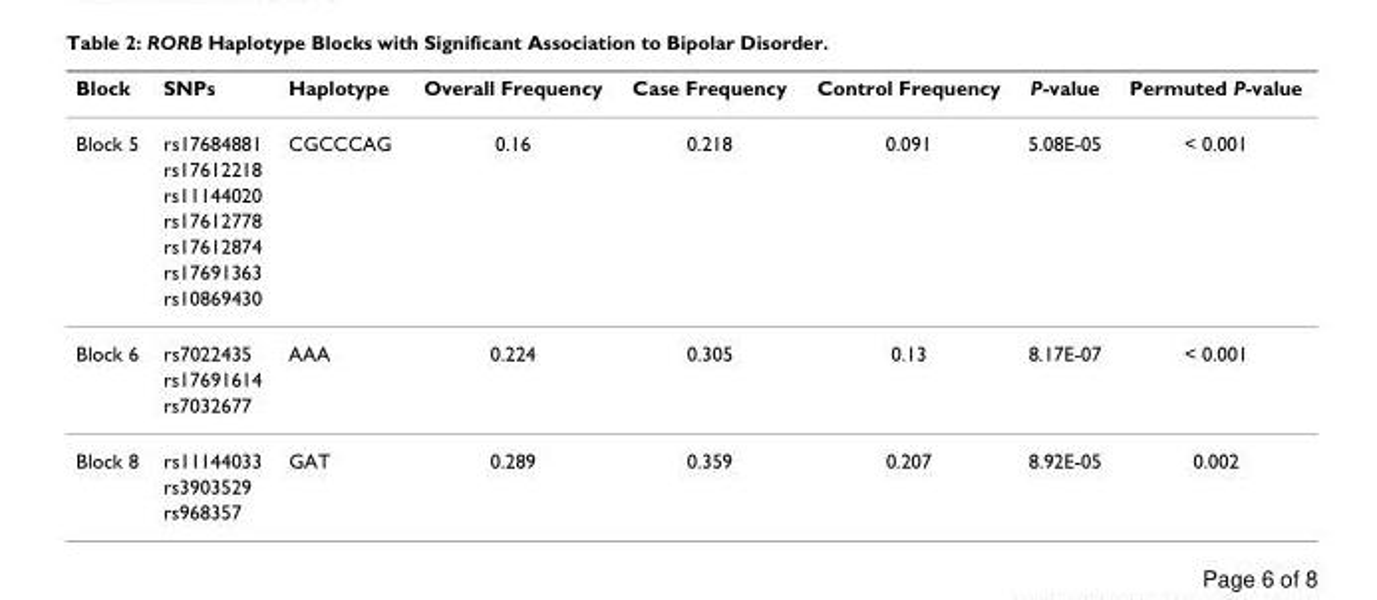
<table><thead><tr><td>Block</td><td>SNPs</td><td>Haplotype</td><td>Overall Frequency</td><td>Case Frequency</td><td>Control Frequency</td><td>P-value</td><td>Permuted P-value</td></tr></thead><tbody><tr><td rowspan="7">Block 5</td><td>rs17684881</td><td>CGCCCAG</td><td>0.16</td><td>0.218</td><td>0.091</td><td>5.08E-05</td><td>&lt; 0.001</td></tr><tr><td>rs17612218</td><td></td><td></td><td></td><td></td><td></td><td></td></tr><tr><td>rs11144020</td><td></td><td></td><td></td><td></td><td></td><td></td></tr><tr><td>rs17612778</td><td></td><td></td><td></td><td></td><td></td><td></td></tr><tr><td>rs17612874</td><td></td><td></td><td></td><td></td><td></td><td></td></tr><tr><td>rs17691363</td><td></td><td></td><td></td><td></td><td></td><td></td></tr><tr><td>rs10869430</td><td></td><td></td><td></td><td></td><td></td><td></td></tr><tr><td rowspan="3">Block 6</td><td>rs7022435</td><td>AAA</td><td>0.224</td><td>0.305</td><td>0.13</td><td>8.17E-07</td><td>&lt; 0.001</td></tr><tr><td>rs17691614</td><td></td><td></td><td></td><td></td><td></td><td></td></tr><tr><td>rs7032677</td><td></td><td></td><td></td><td></td><td></td><td></td></tr><tr><td rowspan="3">Block 8</td><td>rs11144033</td><td>GAT</td><td>0.289</td><td>0.359</td><td>0.207</td><td>8.92E-05</td><td>0.002</td></tr><tr><td>rs3903529</td><td></td><td></td><td></td><td></td><td></td><td></td></tr><tr><td>rs968357</td><td></td><td></td><td></td><td></td><td></td><td></td></tr></tbody></table>